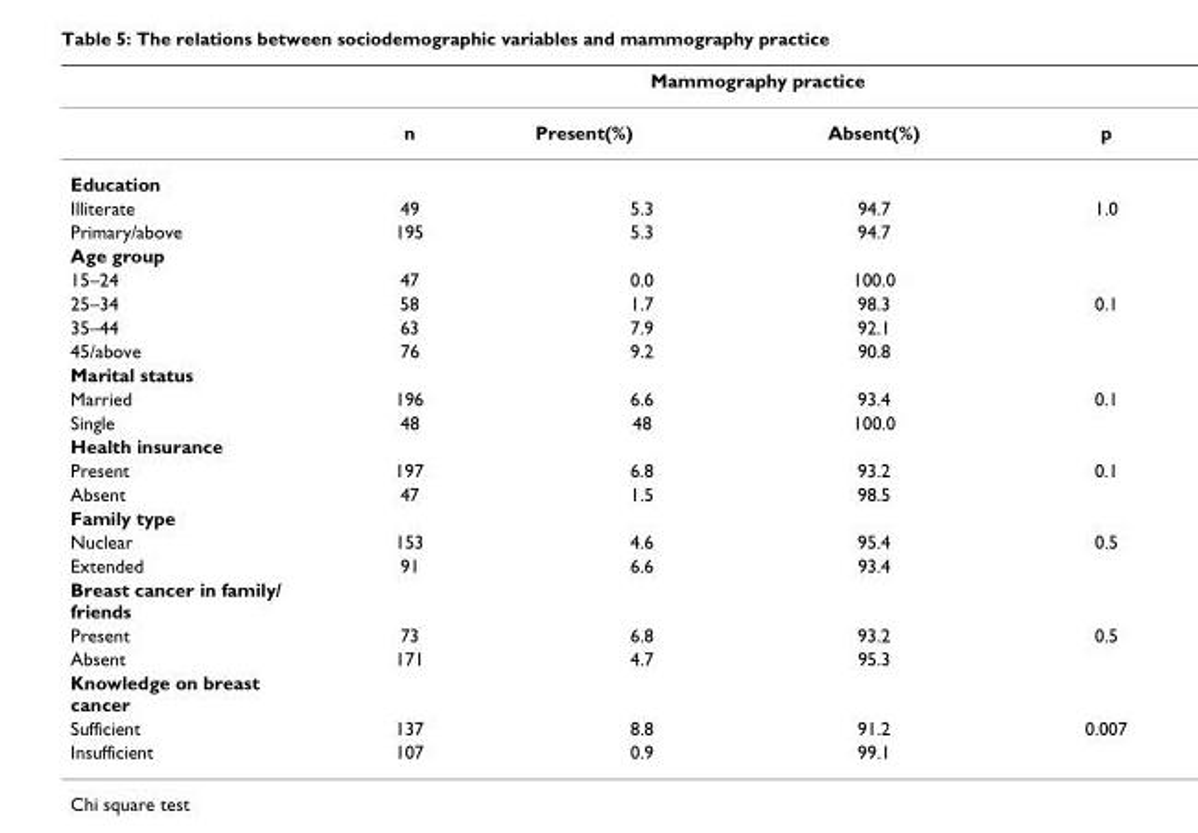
<table><thead><tr><td rowspan="2"></td><td colspan="4">Mammography practice</td></tr><tr><td>n</td><td>Present(%)</td><td>Absent(%)</td><td>p</td></tr></thead><tbody><tr><td colspan="5">Education</td></tr><tr><td>Illiterate</td><td>49</td><td>5.3</td><td>94.7</td><td>1.0</td></tr><tr><td>Primary/above</td><td>195</td><td>5.3</td><td>94.7</td><td></td></tr><tr><td colspan="5">Age group</td></tr><tr><td>15–24</td><td>47</td><td>0.0</td><td>100.0</td><td></td></tr><tr><td>25–34</td><td>58</td><td>1.7</td><td>98.3</td><td>0.1</td></tr><tr><td>35–44</td><td>63</td><td>7.9</td><td>92.1</td><td></td></tr><tr><td>45/above</td><td>76</td><td>9.2</td><td>90.8</td><td></td></tr><tr><td colspan="5">Marital status</td></tr><tr><td>Married</td><td>196</td><td>6.6</td><td>93.4</td><td>0.1</td></tr><tr><td>Single</td><td>48</td><td>48</td><td>100.0</td><td></td></tr><tr><td colspan="5">Health insurance</td></tr><tr><td>Present</td><td>197</td><td>6.8</td><td>93.2</td><td>0.1</td></tr><tr><td>Absent</td><td>47</td><td>1.5</td><td>98.5</td><td></td></tr><tr><td colspan="5">Family type</td></tr><tr><td>Nuclear</td><td>153</td><td>4.6</td><td>95.4</td><td>0.5</td></tr><tr><td>Extended</td><td>91</td><td>6.6</td><td>93.4</td><td></td></tr><tr><td colspan="5">Breast cancer in family/ friends</td></tr><tr><td>Present</td><td>73</td><td>6.8</td><td>93.2</td><td>0.5</td></tr><tr><td>Absent</td><td>171</td><td>4.7</td><td>95.3</td><td></td></tr><tr><td colspan="5">Knowledge on breast cancer</td></tr><tr><td>Sufficient</td><td>137</td><td>8.8</td><td>91.2</td><td>0.007</td></tr><tr><td>Insufficient</td><td>107</td><td>0.9</td><td>99.1</td><td></td></tr></tbody></table>